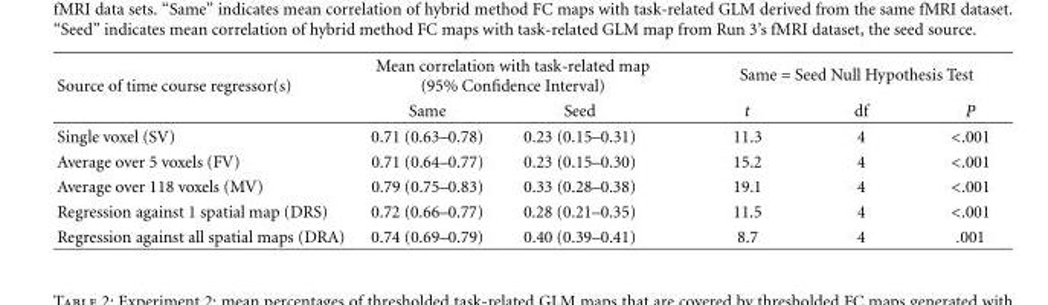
<table><thead><tr><td rowspan="2">Source of time course regressor(s)</td><td colspan="2">Mean correlation with task-related map (95% Confidence Interval)</td><td colspan="3">Same = Seed Null Hypothesis Test</td></tr><tr><td>Same</td><td>Seed</td><td>t</td><td>df</td><td>P</td></tr></thead><tbody><tr><td>Single voxel (SV)</td><td>0.71 (0.63–0.78)</td><td>0.23 (0.15–0.31)</td><td>11.3</td><td>4</td><td>&lt;.001</td></tr><tr><td>Average over 5 voxels (FV)</td><td>0.71 (0.64–0.77)</td><td>0.23 (0.15–0.30)</td><td>15.2</td><td>4</td><td>&lt;.001</td></tr><tr><td>Average over 118 voxels (MV)</td><td>0.79 (0.75–0.83)</td><td>0.33 (0.28–0.38)</td><td>19.1</td><td>4</td><td>&lt;.001</td></tr><tr><td>Regression against 1 spatial map (DRS)</td><td>0.72 (0.66–0.77)</td><td>0.28 (0.21–0.35)</td><td>11.5</td><td>4</td><td>&lt;.001</td></tr><tr><td>Regression against all spatial maps (DRA)</td><td>0.74 (0.69–0.79)</td><td>0.40 (0.39–0.41)</td><td>8.7</td><td>4</td><td>.001</td></tr></tbody></table>